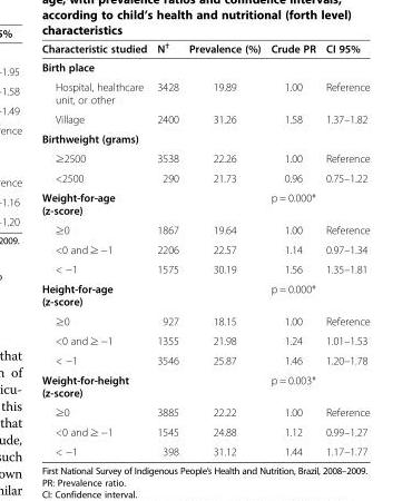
<table><thead><tr><td>Characteristic studied</td><td>N<sup>†</sup></td><td>Prevalence (%)</td><td>Crude PR</td><td>CI 95%</td></tr></thead><tbody><tr><td colspan="5">Birth place</td></tr><tr><td>Hospital, healthcare unit, or other</td><td>3428</td><td>19.89</td><td>1.00</td><td>Reference</td></tr><tr><td>Village</td><td>2400</td><td>31.26</td><td>1.58</td><td>1.37–1.82</td></tr><tr><td colspan="5">Birthweight (grams)</td></tr><tr><td>≥2500</td><td>3538</td><td>22.26</td><td>1.00</td><td>Reference</td></tr><tr><td>&lt;2500</td><td>290</td><td>21.73</td><td>0.96</td><td>0.75–1.22</td></tr><tr><td>Weight-for-age (z-score)</td><td></td><td></td><td>p = 0.000*</td><td></td></tr><tr><td>≥0</td><td>1867</td><td>19.64</td><td>1.00</td><td>Reference</td></tr><tr><td>&lt;0 and ≥ −1</td><td>2206</td><td>22.57</td><td>1.14</td><td>0.97–1.34</td></tr><tr><td>&lt; −1</td><td>1575</td><td>30.19</td><td>1.56</td><td>1.35–1.81</td></tr><tr><td>Height-for-age (z-score)</td><td></td><td></td><td>p = 0.000*</td><td></td></tr><tr><td>≥0</td><td>927</td><td>18.15</td><td>1.00</td><td>Reference</td></tr><tr><td>&lt;0 and ≥ −1</td><td>1355</td><td>21.98</td><td>1.24</td><td>1.01–1.53</td></tr><tr><td>&lt; −1</td><td>3546</td><td>25.87</td><td>1.46</td><td>1.20–1.78</td></tr><tr><td>Weight-for-height (z-score)</td><td></td><td></td><td>p = 0.003*</td><td></td></tr><tr><td>≥0</td><td>3885</td><td>22.22</td><td>1.00</td><td>Reference</td></tr><tr><td>&lt;0 and ≥ −1</td><td>1545</td><td>24.88</td><td>1.12</td><td>0.99–1.27</td></tr><tr><td>&lt; −1</td><td>398</td><td>31.12</td><td>1.44</td><td>1.17–1.77</td></tr></tbody></table>